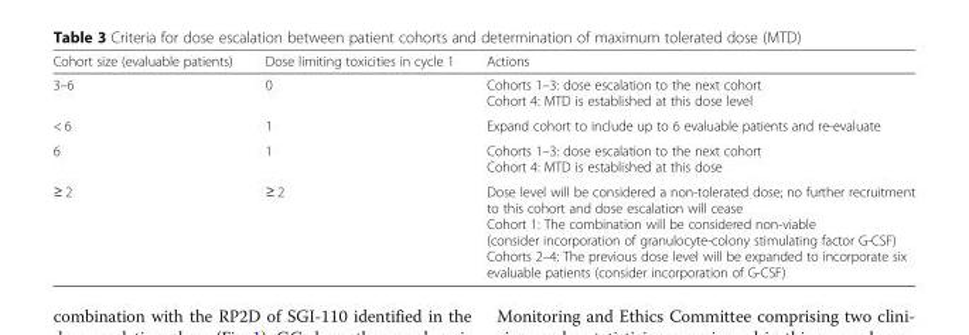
<table><thead><tr><td>Cohort size (evaluable patients)</td><td>Dose limiting toxicities in cycle 1</td><td>Actions</td></tr></thead><tbody><tr><td>3–6</td><td>0</td><td>Cohorts 1–3: dose escalation to the next cohort Cohort 4: MTD is established at this dose level</td></tr><tr><td>&lt; 6</td><td>1</td><td>Expand cohort to include up to 6 evaluable patients and re-evaluate</td></tr><tr><td>6</td><td>1</td><td>Cohorts 1–3: dose escalation to the next cohort Cohort 4: MTD is established at this dose</td></tr><tr><td>≥ 2</td><td>≥ 2</td><td>Dose level will be considered a non-tolerated dose; no further recruitment to this cohort and dose escalation will cease Cohort 1: The combination will be considered non-viable (consider incorporation of granulocyte-colony stimulating factor G-CSF) Cohorts 2–4: The previous dose level will be expanded to incorporate six evaluable patients (consider incorporation of G-CSF)</td></tr></tbody></table>